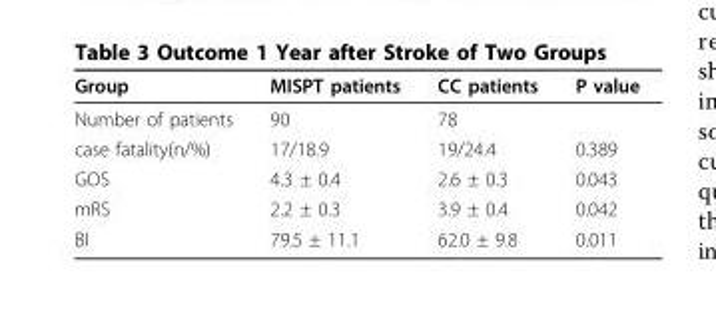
<table><thead><tr><td>Group</td><td>MISPT patients</td><td>CC patients</td><td>P value</td></tr></thead><tbody><tr><td>Number of patients</td><td>90</td><td>78</td><td></td></tr><tr><td>case fatality(n/%)</td><td>17/18.9</td><td>19/24.4</td><td>0.389</td></tr><tr><td>GOS</td><td>4.3 ± 0.4</td><td>2.6 ± 0.3</td><td>0.043</td></tr><tr><td>mRS</td><td>2.2 ± 0.3</td><td>3.9 ± 0.4</td><td>0.042</td></tr><tr><td>BI</td><td>79.5 ± 11.1</td><td>62.0 ± 9.8</td><td>0.011</td></tr></tbody></table>